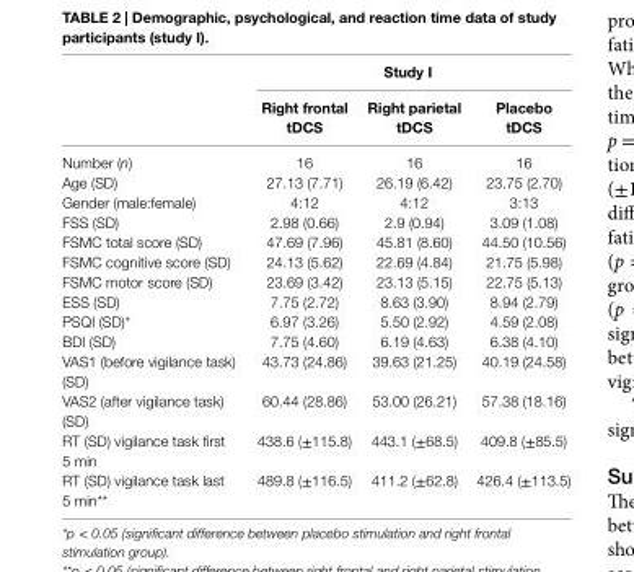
<table><thead><tr><td rowspan="2"></td><td colspan="3">study i</td></tr><tr><td>right frontal tDcs</td><td>right parietal tDcs</td><td>Placebo tDcs</td></tr></thead><tbody><tr><td>Number (n)</td><td>16</td><td>16</td><td>16</td></tr><tr><td>Age (SD)</td><td>27.13 (7.71)</td><td>26.19 (6.42)</td><td>23.75 (2.70)</td></tr><tr><td>Gender (male:female)</td><td>4:12</td><td>4:12</td><td>3:13</td></tr><tr><td>FSS (SD)</td><td>2.98 (0.66)</td><td>2.9 (0.94)</td><td>3.09 (1.08)</td></tr><tr><td>FSMC total score (SD)</td><td>47.69 (7.96)</td><td>45.81 (8.60)</td><td>44.50 (10.56)</td></tr><tr><td>FSMC cognitive score (SD)</td><td>24.13 (5.62)</td><td>22.69 (4.84)</td><td>21.75 (5.98)</td></tr><tr><td>FSMC motor score (SD)</td><td>23.69 (3.42)</td><td>23.13 (5.15)</td><td>22.75 (5.13)</td></tr><tr><td>ESS (SD)</td><td>7.75 (2.72)</td><td>8.63 (3.90)</td><td>8.94 (2.79)</td></tr><tr><td>PSQI (SD)*</td><td>6.97 (3.26)</td><td>5.50 (2.92)</td><td>4.59 (2.08)</td></tr><tr><td>BDI (SD)</td><td>7.75 (4.60)</td><td>6.19 (4.63)</td><td>6.38 (4.10)</td></tr><tr><td>VAS1 (before vigilance task) (SD)</td><td>43.73 (24.86)</td><td>39.63 (21.25)</td><td>40.19 (24.58)</td></tr><tr><td>VAS2 (after vigilance task) (SD)</td><td>60.44 (28.86)</td><td>53.00 (26.21)</td><td>57.38 (18.16)</td></tr><tr><td>RT (SD) vigilance task first 5 min</td><td>438.6 (±115.8)</td><td>443.1 (±68.5)</td><td>409.8 (±85.5)</td></tr><tr><td>RT (SD) vigilance task last 5 min**</td><td>489.8 (±116.5)</td><td>411.2 (±62.8)</td><td>426.4 (±113.5)</td></tr></tbody></table>